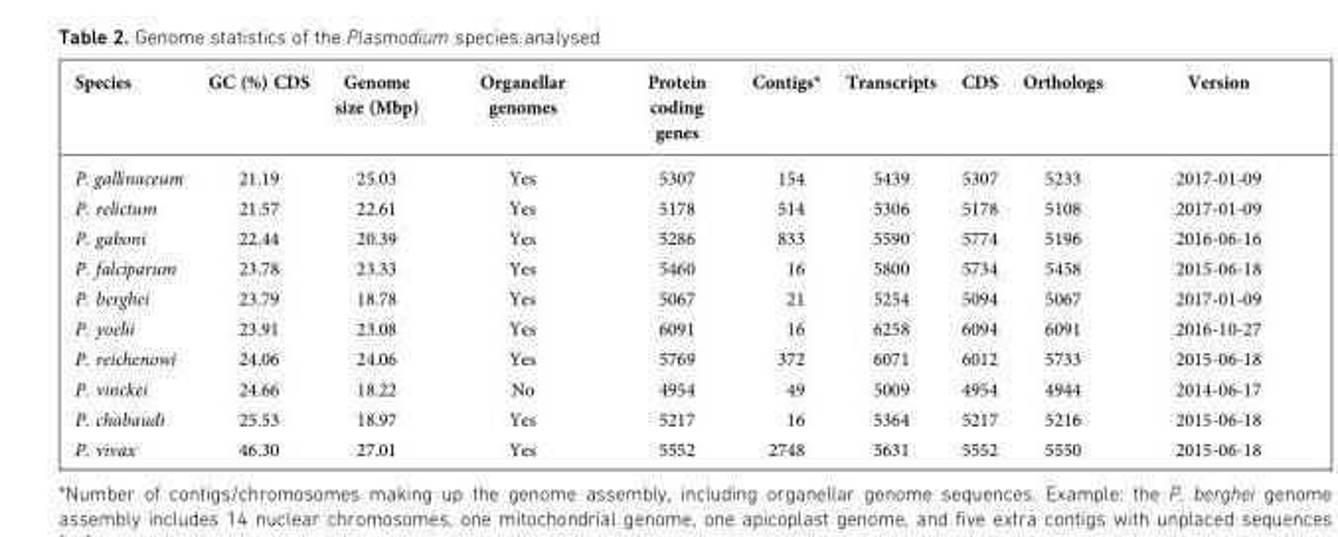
<table><thead><tr><td>Species</td><td>GC (%) CDS</td><td>Genome size (Mbp)</td><td>Organellar genomes</td><td>Protein coding genes</td><td>Contigs*</td><td>Transcripts</td><td>CDS</td><td>Orthologs</td><td>Version</td></tr></thead><tbody><tr><td>P. gallinaceum</td><td>21.19</td><td>25.03</td><td>Yes</td><td>5307</td><td>154</td><td>5439</td><td>5307</td><td>5233</td><td>2017-01-09</td></tr><tr><td>P. relictum</td><td>21.57</td><td>22.61</td><td>Yes</td><td>5178</td><td>514</td><td>5306</td><td>5178</td><td>5108</td><td>2017-01-09</td></tr><tr><td>P. gaboni</td><td>22.44</td><td>20.39</td><td>Yes</td><td>5286</td><td>833</td><td>5590</td><td>5774</td><td>5196</td><td>2016-06-16</td></tr><tr><td>P. falciparum</td><td>23.78</td><td>23.33</td><td>Yes</td><td>5460</td><td>16</td><td>5800</td><td>5734</td><td>5458</td><td>2015-06-18</td></tr><tr><td>P. berghei</td><td>23.79</td><td>18.78</td><td>Yes</td><td>5067</td><td>21</td><td>5254</td><td>5094</td><td>5067</td><td>2017-01-09</td></tr><tr><td>P. yoelii</td><td>23.91</td><td>23.08</td><td>Yes</td><td>6091</td><td>16</td><td>6258</td><td>6094</td><td>6091</td><td>2016-10-27</td></tr><tr><td>P. reichenowi</td><td>24.06</td><td>24.06</td><td>Yes</td><td>5769</td><td>372</td><td>6071</td><td>6012</td><td>5733</td><td>2015-06-18</td></tr><tr><td>P. vinckei</td><td>24.66</td><td>18.22</td><td>No</td><td>4954</td><td>49</td><td>5009</td><td>4954</td><td>4944</td><td>2014-06-17</td></tr><tr><td>P. chabaudi</td><td>25.53</td><td>18.97</td><td>Yes</td><td>5217</td><td>16</td><td>5364</td><td>5217</td><td>5216</td><td>2015-06-18</td></tr><tr><td>P. vivax</td><td>46.30</td><td>27.01</td><td>Yes</td><td>5552</td><td>2748</td><td>5631</td><td>5552</td><td>5550</td><td>2015-06-18</td></tr></tbody></table>